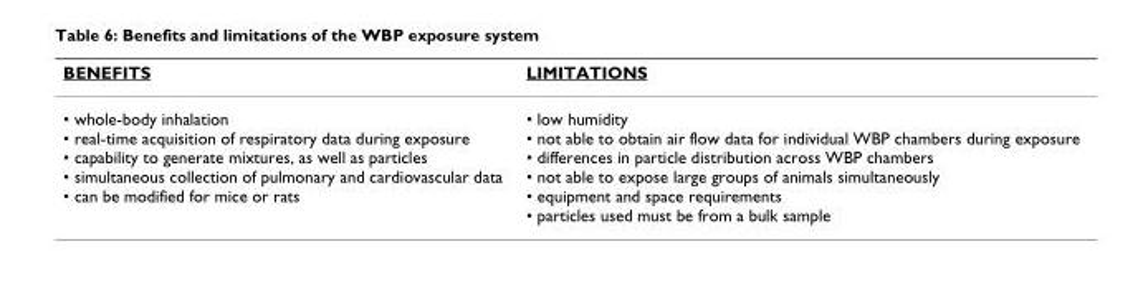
<table><thead><tr><td>BENEFITS</td><td>LIMITATIONS</td></tr></thead><tbody><tr><td>• whole-body inhalation • real-time acquisition of respiratory data during exposure • capability to generate mixtures, as well as particles • simultaneous collection of pulmonary and cardiovascular data • can be modified for mice or rats</td><td>• low humidity • not able to obtain air flow data for individual WBP chambers during exposure • differences in particle distribution across WBP chambers • not able to expose large groups of animals simultaneously • equipment and space requirements • particles used must be from a bulk sample</td></tr></tbody></table>